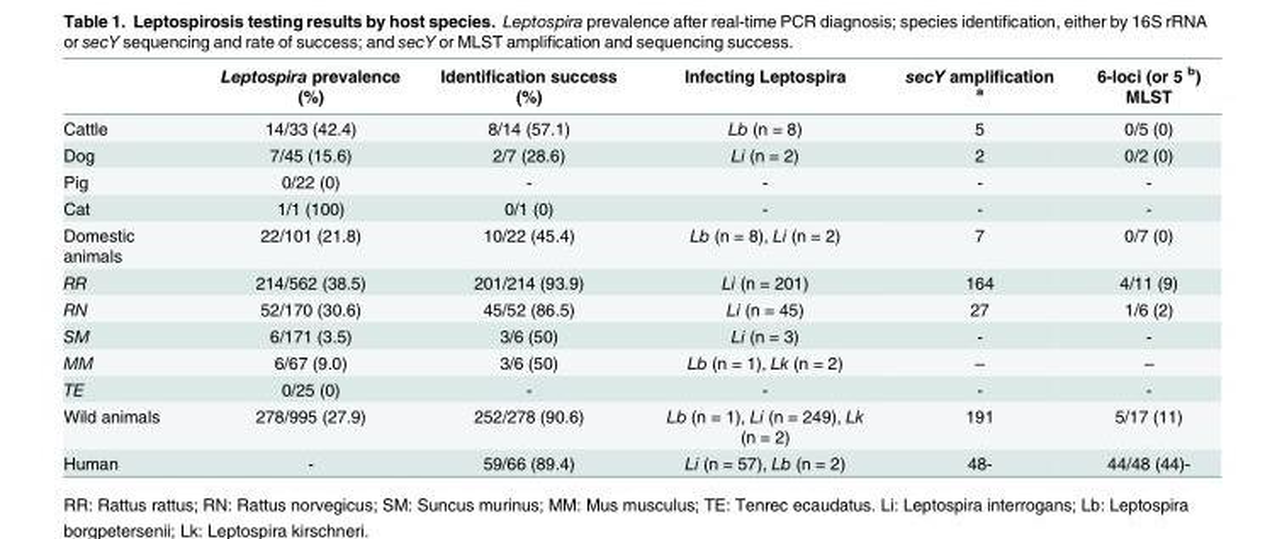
<table><thead><tr><td></td><td>Leptospira prevalence (%)</td><td>Identification success (%)</td><td>Infecting Leptospira</td><td>secY amplification <sup>a</sup></td><td>6-loci (or 5 <sup>b</sup>) MLST</td></tr></thead><tbody><tr><td>Cattle</td><td>14/33 (42.4)</td><td>8/14 (57.1)</td><td>Lb (n = 8)</td><td>5</td><td>0/5 (0)</td></tr><tr><td>Dog</td><td>7/45 (15.6)</td><td>2/7 (28.6)</td><td>Li (n = 2)</td><td>2</td><td>0/2 (0)</td></tr><tr><td>Pig</td><td>0/22 (0)</td><td>-</td><td>-</td><td>-</td><td>-</td></tr><tr><td>Cat</td><td>1/1 (100)</td><td>0/1 (0)</td><td>-</td><td>-</td><td>-</td></tr><tr><td>Domestic animals</td><td>22/101 (21.8)</td><td>10/22 (45.4)</td><td>Lb (n = 8), Li (n = 2)</td><td>7</td><td>0/7 (0)</td></tr><tr><td>RR</td><td>214/562 (38.5)</td><td>201/214 (93.9)</td><td>Li (n = 201)</td><td>164</td><td>4/11 (9)</td></tr><tr><td>RN</td><td>52/170 (30.6)</td><td>45/52 (86.5)</td><td>Li (n = 45)</td><td>27</td><td>1/6 (2)</td></tr><tr><td>SM</td><td>6/171 (3.5)</td><td>3/6 (50)</td><td>Li (n = 3)</td><td>-</td><td>-</td></tr><tr><td>MM</td><td>6/67 (9.0)</td><td>3/6 (50)</td><td>Lb (n = 1), Lk (n = 2)</td><td>–</td><td>–</td></tr><tr><td>TE</td><td>0/25 (0)</td><td>-</td><td>-</td><td>-</td><td>-</td></tr><tr><td>Wild animals</td><td>278/995 (27.9)</td><td>252/278 (90.6)</td><td>Lb (n = 1), Li (n = 249), Lk (n = 2)</td><td>191</td><td>5/17 (11)</td></tr><tr><td>Human</td><td>-</td><td>59/66 (89.4)</td><td>Li (n = 57), Lb (n = 2)</td><td>48-</td><td>44/48 (44)-</td></tr></tbody></table>